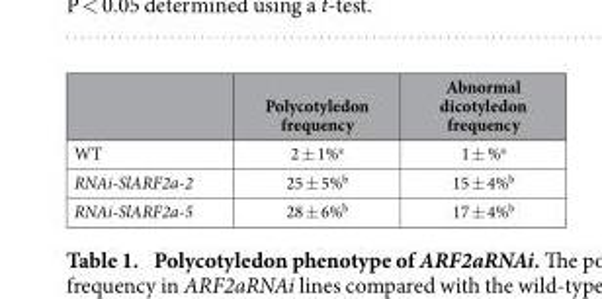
<table><thead><tr><td></td><td>Polycotyledon frequency</td><td>Abnormal dicotyledon frequency</td></tr></thead><tbody><tr><td>WT</td><td>2 ± 1%<sup>a</sup></td><td>1 ± %<sup>a</sup></td></tr><tr><td>RNAi-SlARF2a-2</td><td>25 ± 5%<sup>b</sup></td><td>15 ± 4%<sup>b</sup></td></tr><tr><td>RNAi-SlARF2a-5</td><td>28 ± 6%<sup>b</sup></td><td>17 ± 4%<sup>b</sup></td></tr></tbody></table>